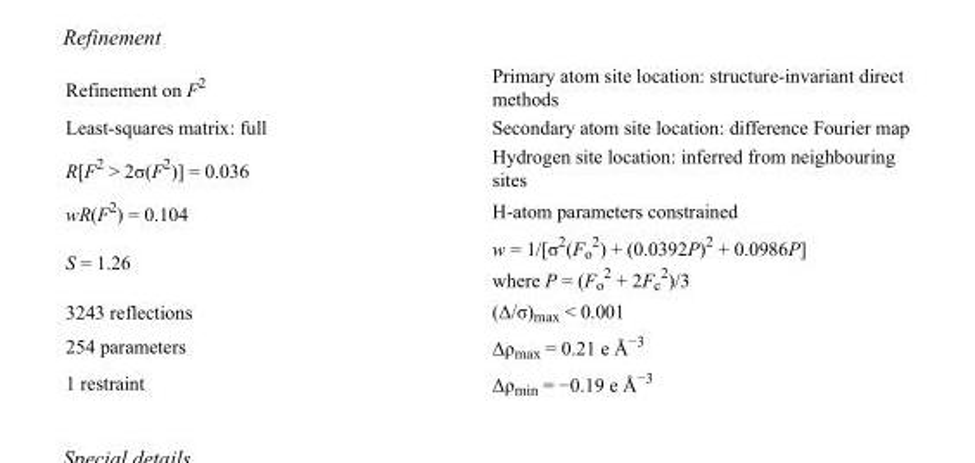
<table><tbody><tr><td>Refinement on F<sup>2</sup></td><td>Primary atom site location: structure-invariant direct methods</td></tr><tr><td>Least-squares matrix: full</td><td>Secondary atom site location: difference Fourier map</td></tr><tr><td>R[F<sup>2</sup> &gt; 2σ(F<sup>2</sup>)] = 0.036</td><td>Hydrogen site location: inferred from neighbouring sites</td></tr><tr><td>wR(F<sup>2</sup>) = 0.104</td><td>H-atom parameters constrained</td></tr><tr><td>S = 1.26</td><td>w = 1/[σ<sup>2</sup>(F<sub>o</sub> <sup>2</sup>) + (0.0392P)<sup>2</sup> + 0.0986P] where P = (F<sub>o</sub> <sup>2</sup> + 2F<sub>c</sub> <sup>2</sup>)/3</td></tr><tr><td>3243 reflections</td><td>(Δ/σ)<sub>max</sub> &lt; 0.001</td></tr><tr><td>254 parameters</td><td>Δρ<sub>max</sub> = 0.21 e Å<sup>−3</sup></td></tr><tr><td>1 restraint</td><td>Δρ<sub>min</sub> = −0.19 e Å<sup>−3</sup></td></tr></tbody></table>